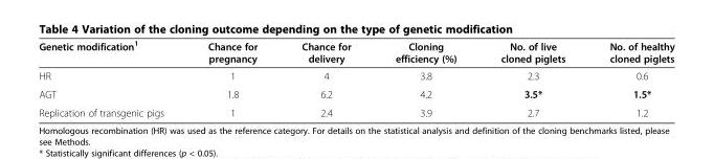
<table><thead><tr><td>Genetic modification<sup>1</sup></td><td>Chance for pregnancy</td><td>Chance for delivery</td><td>Cloning efficiency (%)</td><td>No. of live cloned piglets</td><td>No. of healthy cloned piglets</td></tr></thead><tbody><tr><td>HR</td><td>1</td><td>4</td><td>3.8</td><td>2.3</td><td>0.6</td></tr><tr><td>AGT</td><td>1.8</td><td>6.2</td><td>4.2</td><td>3.5*</td><td>1.5*</td></tr><tr><td>Replication of transgenic pigs</td><td>1</td><td>2.4</td><td>3.9</td><td>2.7</td><td>1.2</td></tr></tbody></table>